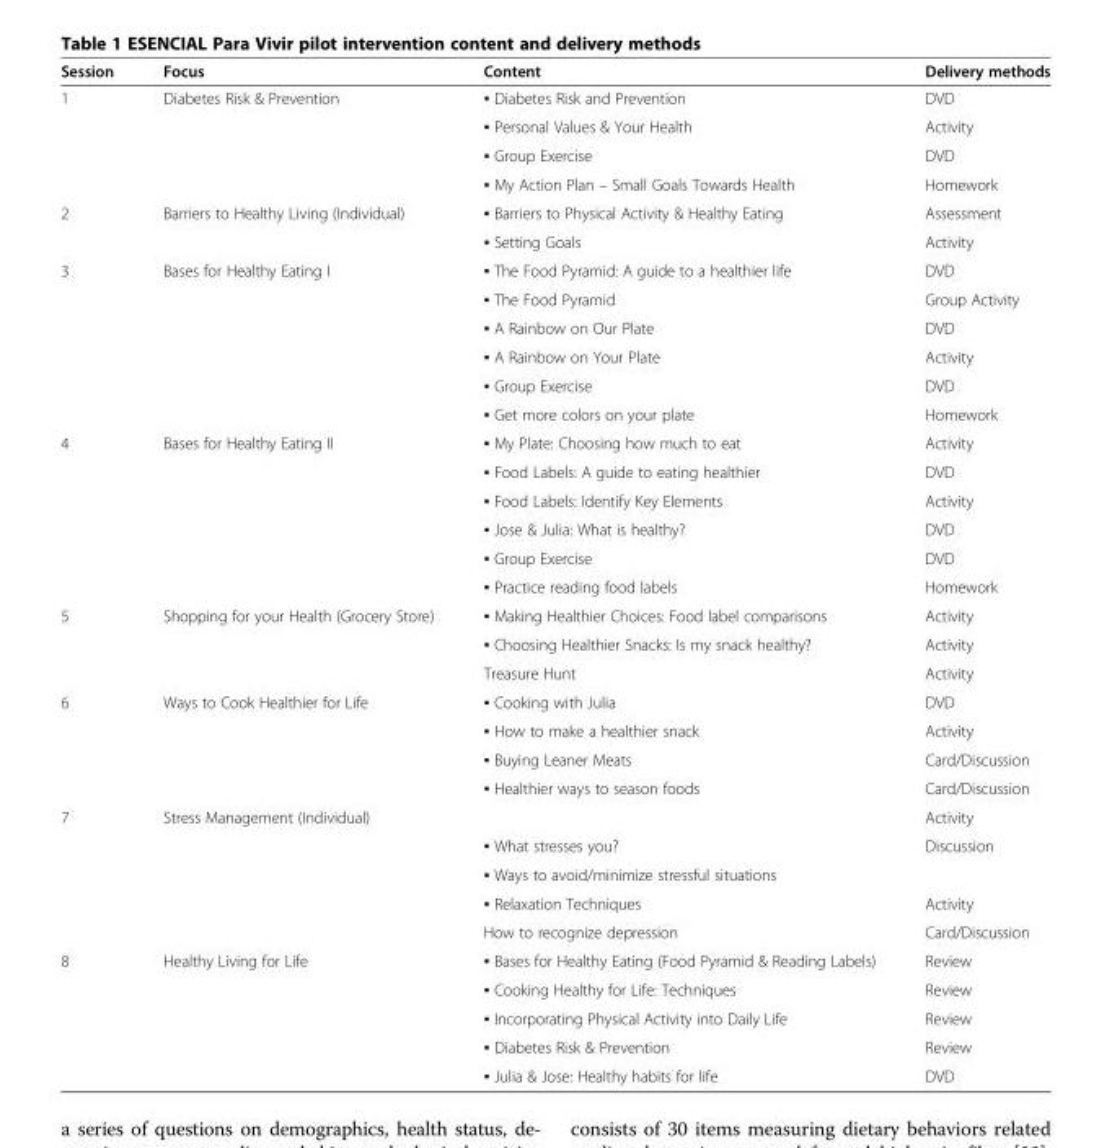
<table><thead><tr><td>Session</td><td>Focus</td><td>Content</td><td>Delivery methods</td></tr></thead><tbody><tr><td rowspan="4">1</td><td rowspan="4">Diabetes Risk &amp; Prevention</td><td>▪ Diabetes Risk and Prevention</td><td>DVD</td></tr><tr><td>▪ Personal Values &amp; Your Health</td><td>Activity</td></tr><tr><td>▪ Group Exercise</td><td>DVD</td></tr><tr><td>▪ My Action Plan – Small Goals Towards Health</td><td>Homework</td></tr><tr><td rowspan="2">2</td><td rowspan="2">Barriers to Healthy Living (Individual)</td><td>▪ Barriers to Physical Activity &amp; Healthy Eating</td><td>Assessment</td></tr><tr><td>▪ Setting Goals</td><td>Activity</td></tr><tr><td rowspan="6">3</td><td rowspan="6">Bases for Healthy Eating I</td><td>▪ The Food Pyramid: A guide to a healthier life</td><td>DVD</td></tr><tr><td>▪ The Food Pyramid</td><td>Group Activity</td></tr><tr><td>▪ A Rainbow on Our Plate</td><td>DVD</td></tr><tr><td>▪ A Rainbow on Your Plate</td><td>Activity</td></tr><tr><td>▪ Group Exercise</td><td>DVD</td></tr><tr><td>▪ Get more colors on your plate</td><td>Homework</td></tr><tr><td rowspan="6">4</td><td rowspan="6">Bases for Healthy Eating II</td><td>▪ My Plate: Choosing how much to eat</td><td>Activity</td></tr><tr><td>▪ Food Labels: A guide to eating healthier</td><td>DVD</td></tr><tr><td>▪ Food Labels: Identify Key Elements</td><td>Activity</td></tr><tr><td>▪ Jose &amp; Julia: What is healthy?</td><td>DVD</td></tr><tr><td>▪ Group Exercise</td><td>DVD</td></tr><tr><td>▪ Practice reading food labels</td><td>Homework</td></tr><tr><td rowspan="3">5</td><td rowspan="3">Shopping for your Health (Grocery Store)</td><td>▪ Making Healthier Choices: Food label comparisons</td><td>Activity</td></tr><tr><td>▪ Choosing Healthier Snacks: Is my snack healthy?</td><td>Activity</td></tr><tr><td>Treasure Hunt</td><td>Activity</td></tr><tr><td rowspan="4">6</td><td rowspan="4">Ways to Cook Healthier for Life</td><td>▪ Cooking with Julia</td><td>DVD</td></tr><tr><td>▪ How to make a healthier snack</td><td>Activity</td></tr><tr><td>▪ Buying Leaner Meats</td><td>Card/Discussion</td></tr><tr><td>▪ Healthier ways to season foods</td><td>Card/Discussion</td></tr><tr><td rowspan="5">7</td><td rowspan="5">Stress Management (Individual)</td><td></td><td>Activity</td></tr><tr><td>▪ What stresses you?</td><td>Discussion</td></tr><tr><td>▪ Ways to avoid/minimize stressful situations</td><td></td></tr><tr><td>▪ Relaxation Techniques</td><td>Activity</td></tr><tr><td>How to recognize depression</td><td>Card/Discussion</td></tr><tr><td rowspan="5">8</td><td rowspan="5">Healthy Living for Life</td><td>▪ Bases for Healthy Eating (Food Pyramid &amp; Reading Labels)</td><td>Review</td></tr><tr><td>▪ Cooking Healthy for Life: Techniques</td><td>Review</td></tr><tr><td>▪ Incorporating Physical Activity into Daily Life</td><td>Review</td></tr><tr><td>▪ Diabetes Risk &amp; Prevention</td><td>Review</td></tr><tr><td>▪ Julia &amp; Jose: Healthy habits for life</td><td>DVD</td></tr></tbody></table>